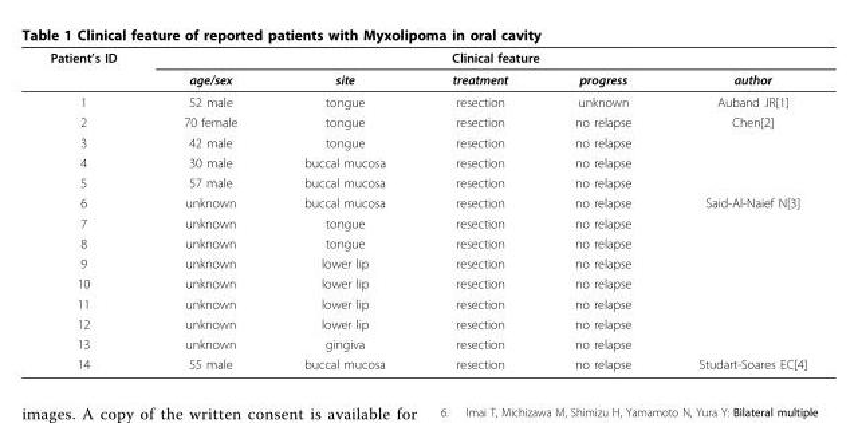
<table><thead><tr><td rowspan="2">Patient’s ID</td><td colspan="5">Clinical feature</td></tr><tr><td>age/sex</td><td>site</td><td>treatment</td><td>progress</td><td>author</td></tr></thead><tbody><tr><td>1</td><td>52 male</td><td>tongue</td><td>resection</td><td>unknown</td><td>Auband JR[1]</td></tr><tr><td>2</td><td>70 female</td><td>tongue</td><td>resection</td><td>no relapse</td><td>Chen[2]</td></tr><tr><td>3</td><td>42 male</td><td>tongue</td><td>resection</td><td>no relapse</td><td></td></tr><tr><td>4</td><td>30 male</td><td>buccal mucosa</td><td>resection</td><td>no relapse</td><td></td></tr><tr><td>5</td><td>57 male</td><td>buccal mucosa</td><td>resection</td><td>no relapse</td><td></td></tr><tr><td>6</td><td>unknown</td><td>buccal mucosa</td><td>resection</td><td>no relapse</td><td>Said-Al-Naief N[3]</td></tr><tr><td>7</td><td>unknown</td><td>tongue</td><td>resection</td><td>no relapse</td><td></td></tr><tr><td>8</td><td>unknown</td><td>tongue</td><td>resection</td><td>no relapse</td><td></td></tr><tr><td>9</td><td>unknown</td><td>lower lip</td><td>resection</td><td>no relapse</td><td></td></tr><tr><td>10</td><td>unknown</td><td>lower lip</td><td>resection</td><td>no relapse</td><td></td></tr><tr><td>11</td><td>unknown</td><td>lower lip</td><td>resection</td><td>no relapse</td><td></td></tr><tr><td>12</td><td>unknown</td><td>lower lip</td><td>resection</td><td>no relapse</td><td></td></tr><tr><td>13</td><td>unknown</td><td>gingiva</td><td>resection</td><td>no relapse</td><td></td></tr><tr><td>14</td><td>55 male</td><td>buccal mucosa</td><td>resection</td><td>no relapse</td><td>Studart-Soares EC[4]</td></tr></tbody></table>